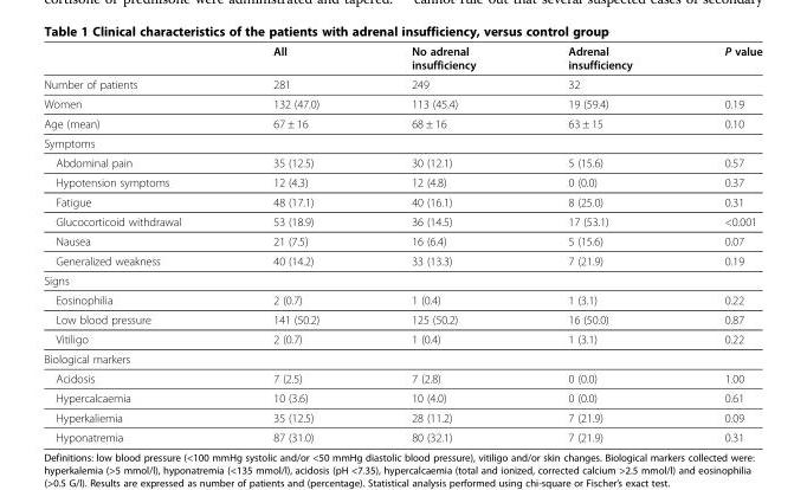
<table><thead><tr><td></td><td>All</td><td>No adrenal insufficiency</td><td>Adrenal insufficiency</td><td>P value</td></tr></thead><tbody><tr><td>Number of patients</td><td>281</td><td>249</td><td>32</td><td></td></tr><tr><td>Women</td><td>132 (47.0)</td><td>113 (45.4)</td><td>19 (59.4)</td><td>0.19</td></tr><tr><td>Age (mean)</td><td>67 ± 16</td><td>68 ± 16</td><td>63 ± 15</td><td>0.10</td></tr><tr><td colspan="5">Symptoms</td></tr><tr><td>Abdominal pain</td><td>35 (12.5)</td><td>30 (12.1)</td><td>5 (15.6)</td><td>0.57</td></tr><tr><td>Hypotension symptoms</td><td>12 (4.3)</td><td>12 (4.8)</td><td>0 (0.0)</td><td>0.37</td></tr><tr><td>Fatigue</td><td>48 (17.1)</td><td>40 (16.1)</td><td>8 (25.0)</td><td>0.31</td></tr><tr><td>Glucocorticoid withdrawal</td><td>53 (18.9)</td><td>36 (14.5)</td><td>17 (53.1)</td><td>&lt;0.001</td></tr><tr><td>Nausea</td><td>21 (7.5)</td><td>16 (6.4)</td><td>5 (15.6)</td><td>0.07</td></tr><tr><td>Generalized weakness</td><td>40 (14.2)</td><td>33 (13.3)</td><td>7 (21.9)</td><td>0.19</td></tr><tr><td colspan="5">Signs</td></tr><tr><td>Eosinophilia</td><td>2 (0.7)</td><td>1 (0.4)</td><td>1 (3.1)</td><td>0.22</td></tr><tr><td>Low blood pressure</td><td>141 (50.2)</td><td>125 (50.2)</td><td>16 (50.0)</td><td>0.87</td></tr><tr><td>Vitiligo</td><td>2 (0.7)</td><td>1 (0.4)</td><td>1 (3.1)</td><td>0.22</td></tr><tr><td colspan="5">Biological markers</td></tr><tr><td>Acidosis</td><td>7 (2.5)</td><td>7 (2.8)</td><td>0 (0.0)</td><td>1.00</td></tr><tr><td>Hypercalcaemia</td><td>10 (3.6)</td><td>10 (4.0)</td><td>0 (0.0)</td><td>0.61</td></tr><tr><td>Hyperkaliemia</td><td>35 (12.5)</td><td>28 (11.2)</td><td>7 (21.9)</td><td>0.09</td></tr><tr><td>Hyponatremia</td><td>87 (31.0)</td><td>80 (32.1)</td><td>7 (21.9)</td><td>0.31</td></tr></tbody></table>